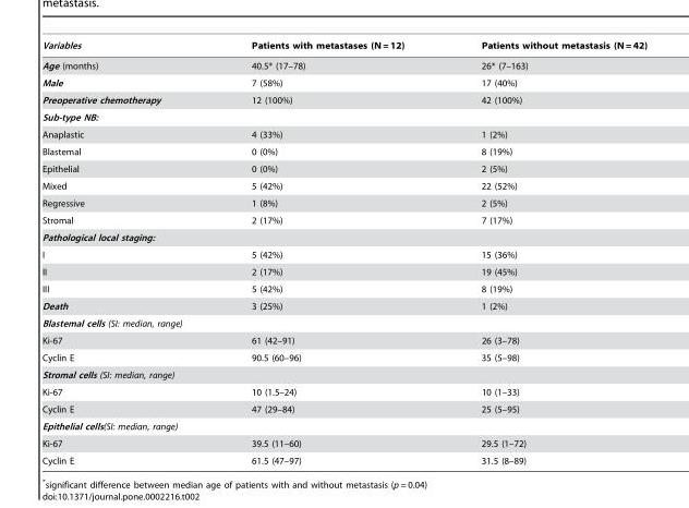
<table><thead><tr><td>Variables</td><td>Patients with metastases (N = 12)</td><td>Patients without metastasis (N = 42)</td></tr></thead><tbody><tr><td>Age (months)</td><td>40.5* (17–78)</td><td>26* (7–163)</td></tr><tr><td>Male</td><td>7 (58%)</td><td>17 (40%)</td></tr><tr><td>Preoperative chemotherapy</td><td>12 (100%)</td><td>42 (100%)</td></tr><tr><td colspan="3">Sub-type NB:</td></tr><tr><td>Anaplastic</td><td>4 (33%)</td><td>1 (2%)</td></tr><tr><td>Blastemal</td><td>0 (0%)</td><td>8 (19%)</td></tr><tr><td>Epithelial</td><td>0 (0%)</td><td>2 (5%)</td></tr><tr><td>Mixed</td><td>5 (42%)</td><td>22 (52%)</td></tr><tr><td>Regressive</td><td>1 (8%)</td><td>2 (5%)</td></tr><tr><td>Stromal</td><td>2 (17%)</td><td>7 (17%)</td></tr><tr><td colspan="3">Pathological local staging:</td></tr><tr><td>I</td><td>5 (42%)</td><td>15 (36%)</td></tr><tr><td>II</td><td>2 (17%)</td><td>19 (45%)</td></tr><tr><td>III</td><td>5 (42%)</td><td>8 (19%)</td></tr><tr><td>Death</td><td>3 (25%)</td><td>1 (2%)</td></tr><tr><td colspan="3">Blastemal cells (SI: median, range)</td></tr><tr><td>Ki-67</td><td>61 (42–91)</td><td>26 (3–78)</td></tr><tr><td>Cyclin E</td><td>90.5 (60–96)</td><td>35 (5–98)</td></tr><tr><td colspan="3">Stromal cells (SI: median, range)</td></tr><tr><td>Ki-67</td><td>10 (1.5–24)</td><td>10 (1–33)</td></tr><tr><td>Cyclin E</td><td>47 (29–84)</td><td>25 (5–95)</td></tr><tr><td colspan="3">Epithelial cells(SI: median, range)</td></tr><tr><td>Ki-67</td><td>39.5 (11–60)</td><td>29.5 (1–72)</td></tr><tr><td>Cyclin E</td><td>61.5 (47–97)</td><td>31.5 (8–89)</td></tr></tbody></table>